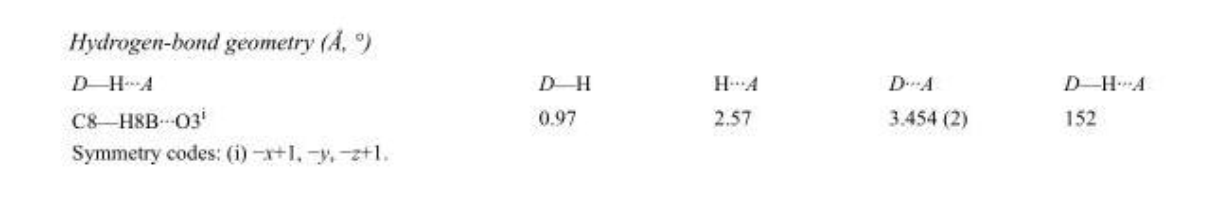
<table><tbody><tr><td>D—H···A</td><td>D—H</td><td>H···A</td><td>D···A</td><td>D—H···A</td></tr><tr><td>C8—H8B···O3<sup>i</sup></td><td>0.97</td><td>2.57</td><td>3.454 (2)</td><td>152</td></tr></tbody></table>